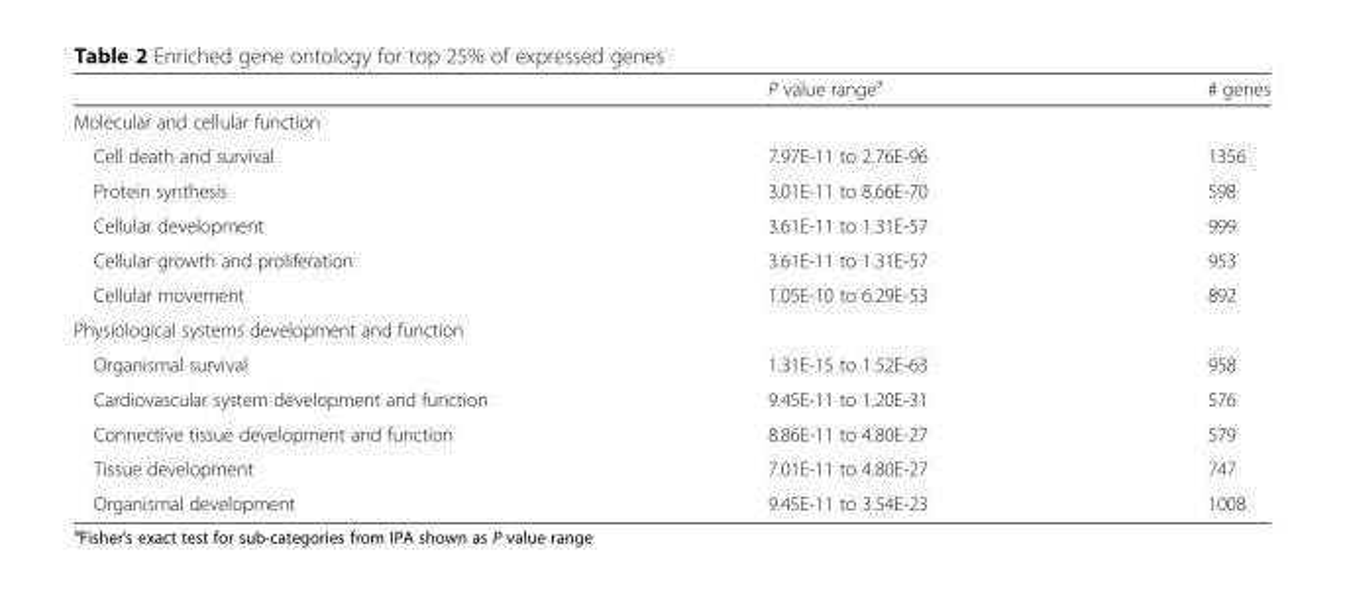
<table><thead><tr><td></td><td>P value range<sup>a</sup></td><td># genes</td></tr></thead><tbody><tr><td colspan="3">Molecular and cellular function</td></tr><tr><td>Cell death and survival</td><td>7.97E-11 to 2.76E-96</td><td>1356</td></tr><tr><td>Protein synthesis</td><td>3.01E-11 to 8.66E-70</td><td>598</td></tr><tr><td>Cellular development</td><td>3.61E-11 to 1.31E-57</td><td>999</td></tr><tr><td>Cellular growth and proliferation</td><td>3.61E-11 to 1.31E-57</td><td>953</td></tr><tr><td>Cellular movement</td><td>1.05E-10 to 6.29E-53</td><td>892</td></tr><tr><td colspan="3">Physiological systems development and function</td></tr><tr><td>Organismal survival</td><td>1.31E-15 to 1.52E-63</td><td>958</td></tr><tr><td>Cardiovascular system development and function</td><td>9.45E-11 to 1.20E-31</td><td>576</td></tr><tr><td>Connective tissue development and function</td><td>8.86E-11 to 4.80E-27</td><td>579</td></tr><tr><td>Tissue development</td><td>7.01E-11 to 4.80E-27</td><td>747</td></tr><tr><td>Organismal development</td><td>9.45E-11 to 3.54E-23</td><td>1008</td></tr></tbody></table>